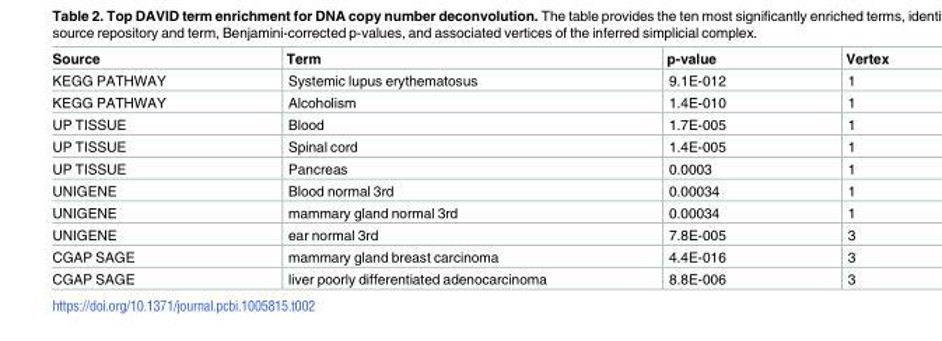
<table><thead><tr><td>Source</td><td>Term</td><td>p-value</td><td>Vertex</td></tr></thead><tbody><tr><td>KEGG PATHWAY</td><td>Systemic lupus erythematosus</td><td>9.1E-012</td><td>1</td></tr><tr><td>KEGG PATHWAY</td><td>Alcoholism</td><td>1.4E-010</td><td>1</td></tr><tr><td>UP TISSUE</td><td>Blood</td><td>1.7E-005</td><td>1</td></tr><tr><td>UP TISSUE</td><td>Spinal cord</td><td>1.4E-005</td><td>1</td></tr><tr><td>UP TISSUE</td><td>Pancreas</td><td>0.0003</td><td>1</td></tr><tr><td>UNIGENE</td><td>Blood normal 3rd</td><td>0.00034</td><td>1</td></tr><tr><td>UNIGENE</td><td>mammary gland normal 3rd</td><td>0.00034</td><td>1</td></tr><tr><td>UNIGENE</td><td>ear normal 3rd</td><td>7.8E-005</td><td>3</td></tr><tr><td>CGAP SAGE</td><td>mammary gland breast carcinoma</td><td>4.4E-016</td><td>3</td></tr><tr><td>CGAP SAGE</td><td>liver poorly differentiated adenocarcinoma</td><td>8.8E-006</td><td>3</td></tr></tbody></table>